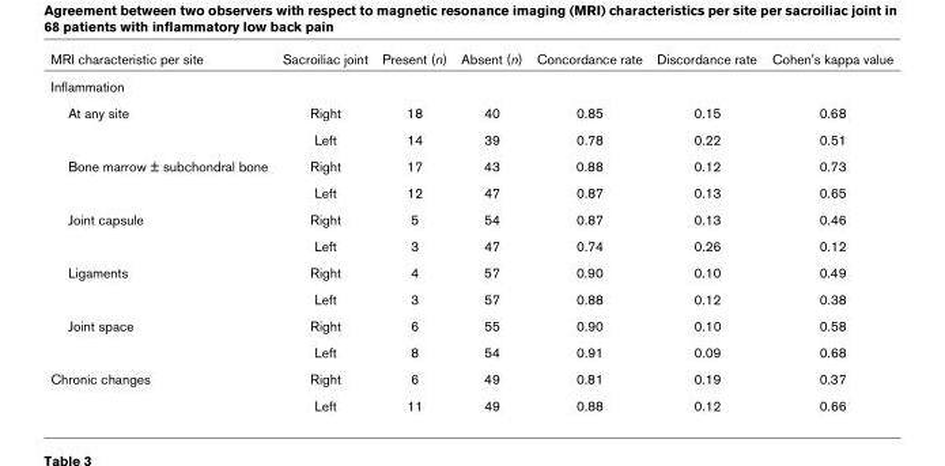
<table><thead><tr><td>MRI characteristic per site</td><td>Sacroiliac joint</td><td>Present (n)</td><td>Absent (n)</td><td>Concordance rate</td><td>Discordance rate</td><td>Cohen&#x27;s kappa value</td></tr></thead><tbody><tr><td colspan="7">Inflammation</td></tr><tr><td rowspan="2">At any site</td><td>Right</td><td>18</td><td>40</td><td>0.85</td><td>0.15</td><td>0.68</td></tr><tr><td>Left</td><td>14</td><td>39</td><td>0.78</td><td>0.22</td><td>0.51</td></tr><tr><td rowspan="2">Bone marrow ± subchondral bone</td><td>Right</td><td>17</td><td>43</td><td>0.88</td><td>0.12</td><td>0.73</td></tr><tr><td>Left</td><td>12</td><td>47</td><td>0.87</td><td>0.13</td><td>0.65</td></tr><tr><td rowspan="2">Joint capsule</td><td>Right</td><td>5</td><td>54</td><td>0.87</td><td>0.13</td><td>0.46</td></tr><tr><td>Left</td><td>3</td><td>47</td><td>0.74</td><td>0.26</td><td>0.12</td></tr><tr><td rowspan="2">Ligaments</td><td>Right</td><td>4</td><td>57</td><td>0.90</td><td>0.10</td><td>0.49</td></tr><tr><td>Left</td><td>3</td><td>57</td><td>0.88</td><td>0.12</td><td>0.38</td></tr><tr><td rowspan="2">Joint space</td><td>Right</td><td>6</td><td>55</td><td>0.90</td><td>0.10</td><td>0.58</td></tr><tr><td>Left</td><td>8</td><td>54</td><td>0.91</td><td>0.09</td><td>0.68</td></tr><tr><td rowspan="2">Chronic changes</td><td>Right</td><td>6</td><td>49</td><td>0.81</td><td>0.19</td><td>0.37</td></tr><tr><td>Left</td><td>11</td><td>49</td><td>0.88</td><td>0.12</td><td>0.66</td></tr></tbody></table>